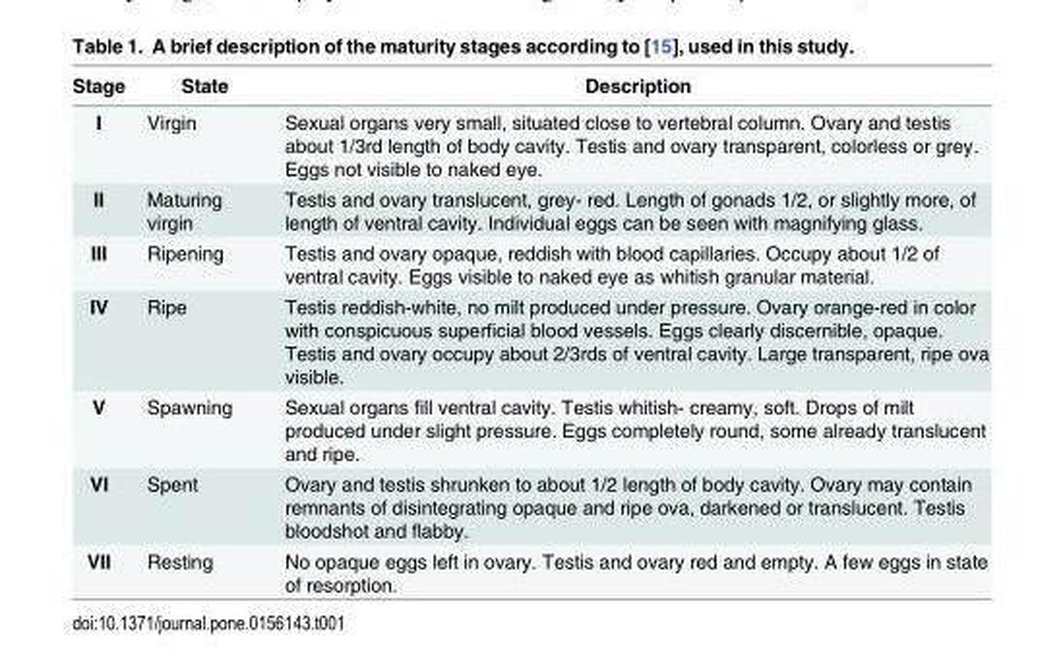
<table><thead><tr><td>Stage</td><td>State</td><td>Description</td></tr></thead><tbody><tr><td>I</td><td>Virgin</td><td>Sexual organs very small, situated close to vertebral column. Ovary and testis about 1/3rd length of body cavity. Testis and ovary transparent, colorless or grey. Eggs not visible to naked eye.</td></tr><tr><td>II</td><td>Maturing virgin</td><td>Testis and ovary translucent, grey- red. Length of gonads 1/2, or slightly more, of length of ventral cavity. Individual eggs can be seen with magnifying glass.</td></tr><tr><td>III</td><td>Ripening</td><td>Testis and ovary opaque, reddish with blood capillaries. Occupy about 1/2 of ventral cavity. Eggs visible to naked eye as whitish granular material.</td></tr><tr><td>IV</td><td>Ripe</td><td>Testis reddish-white, no milt produced under pressure. Ovary orange-red in color with conspicuous superficial blood vessels. Eggs clearly discernible, opaque. Testis and ovary occupy about 2/3rds of ventral cavity. Large transparent, ripe ova visible.</td></tr><tr><td>V</td><td>Spawning</td><td>Sexual organs fill ventral cavity. Testis whitish- creamy, soft. Drops of milt produced under slight pressure. Eggs completely round, some already translucent and ripe.</td></tr><tr><td>VI</td><td>Spent</td><td>Ovary and testis shrunken to about 1/2 length of body cavity. Ovary may contain remnants of disintegrating opaque and ripe ova, darkened or translucent. Testis bloodshot and flabby.</td></tr><tr><td>VII</td><td>Resting</td><td>No opaque eggs left in ovary. Testis and ovary red and empty. A few eggs in state of resorption.</td></tr></tbody></table>